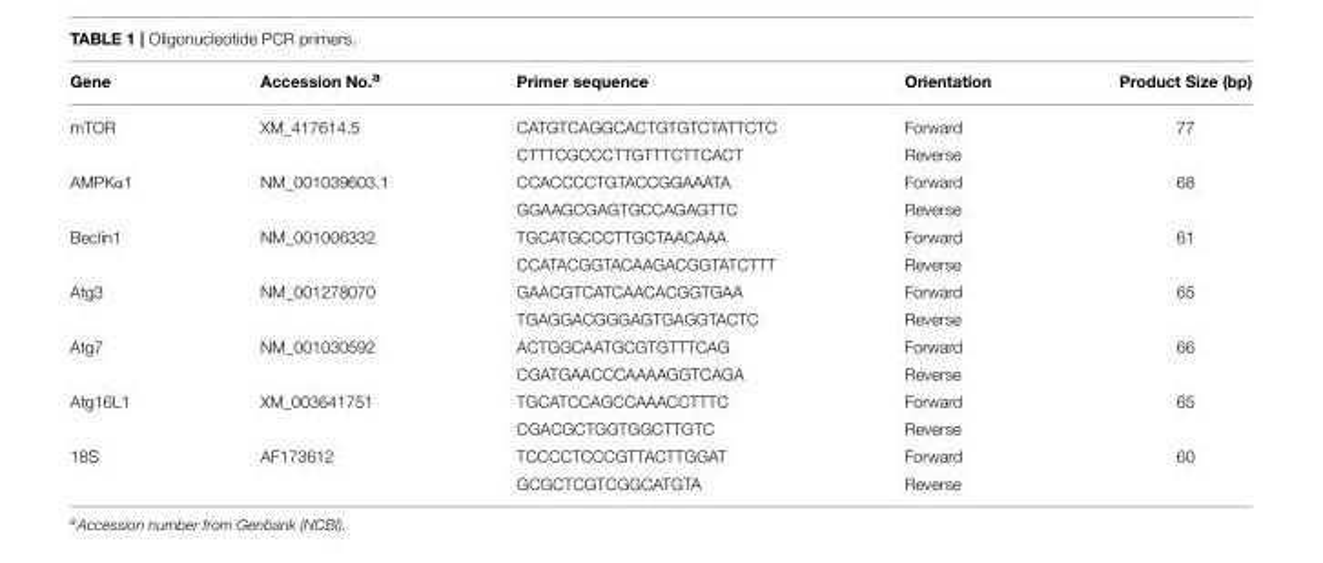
<table><thead><tr><td>Gene</td><td>Accession No.<sup>a</sup></td><td>Primer sequence</td><td>Orientation</td><td>Product Size (bp)</td></tr></thead><tbody><tr><td rowspan="2">mTOR</td><td>XM_417614.5</td><td>CATGTCAGGCACTGTGTCTATTCTC</td><td>Forward</td><td>77</td></tr><tr><td></td><td>CTTTCGCCCTTGTTTCTTCACT</td><td>Reverse</td><td></td></tr><tr><td rowspan="2">AMPKα1</td><td>NM_001039603.1</td><td>CCACCCCTGTACCGGAAATA</td><td>Forward</td><td>68</td></tr><tr><td></td><td>GGAAGCGAGTGCCAGAGTTC</td><td>Reverse</td><td></td></tr><tr><td rowspan="2">Beclin1</td><td>NM_001006332</td><td>TGCATGCCCTTGCTAACAAA</td><td>Forward</td><td>61</td></tr><tr><td></td><td>CCATACGGTACAAGACGGTATCTTT</td><td>Reverse</td><td></td></tr><tr><td rowspan="2">Atg3</td><td>NM_001278070</td><td>GAACGTCATCAACACGGTGAA</td><td>Forward</td><td>65</td></tr><tr><td></td><td>TGAGGACGGGAGTGAGGTACTC</td><td>Reverse</td><td></td></tr><tr><td rowspan="2">Atg7</td><td>NM_001030592</td><td>ACTGGCAATGCGTGTTTCAG</td><td>Forward</td><td>66</td></tr><tr><td></td><td>CGATGAACCCAAAAGGTCAGA</td><td>Reverse</td><td></td></tr><tr><td rowspan="2">Atg16L1</td><td>XM_003641751</td><td>TGCATCCAGCCAAACCTTTC</td><td>Forward</td><td>65</td></tr><tr><td></td><td>CGACGCTGGTGGCTTGTC</td><td>Reverse</td><td></td></tr><tr><td rowspan="2">18S</td><td>AF173612</td><td>TCCCCTCCCGTTACTTGGAT</td><td>Forward</td><td>60</td></tr><tr><td></td><td>GCGCTCGTCGGCATGTA</td><td>Reverse</td><td></td></tr></tbody></table>